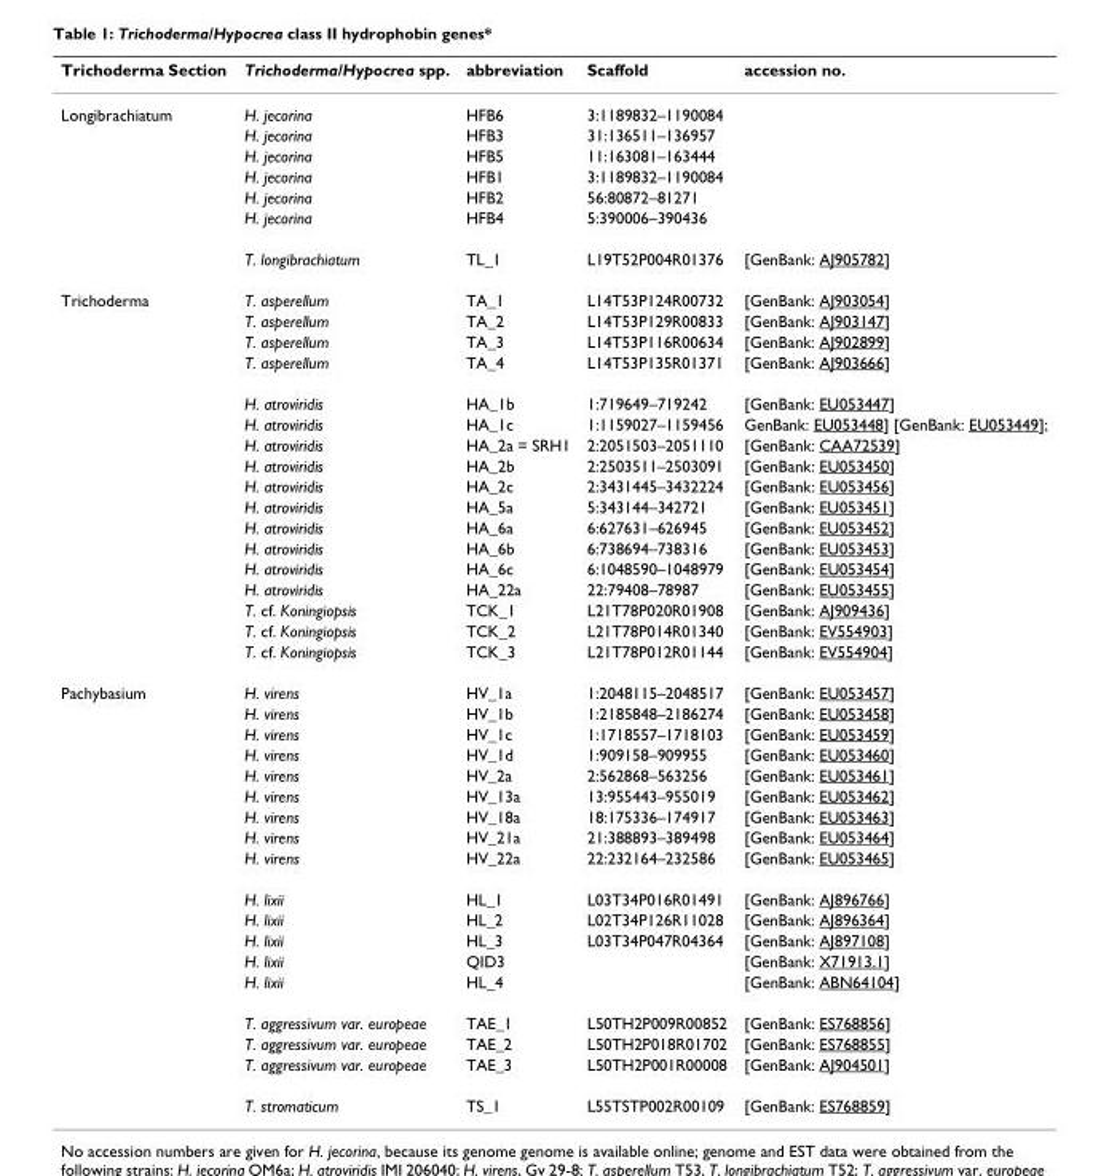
<table><thead><tr><td>Trichoderma Section</td><td>Trichoderma/Hypocrea spp.</td><td>abbreviation</td><td>Scaffold</td><td>accession no.</td></tr></thead><tbody><tr><td rowspan="7">Longibrachiatum</td><td>H. jecorina</td><td>HFB6</td><td>3:1189832–1190084</td><td></td></tr><tr><td>H. jecorina</td><td>HFB3</td><td>31:136511–136957</td><td></td></tr><tr><td>H. jecorina</td><td>HFB5</td><td>11:163081–163444</td><td></td></tr><tr><td>H. jecorina</td><td>HFB1</td><td>3:1189832–1190084</td><td></td></tr><tr><td>H. jecorina</td><td>HFB2</td><td>56:80872–81271</td><td></td></tr><tr><td>H. jecorina</td><td>HFB4</td><td>5:390006–390436</td><td></td></tr><tr><td>T. longibrachiatum</td><td>TL_1</td><td>L19T52P004R01376</td><td>[GenBank: AJ905782]</td></tr><tr><td rowspan="17">Trichoderma</td><td>T. asperellum</td><td>TA_1</td><td>L14T53P124R00732</td><td>[GenBank: AJ903054]</td></tr><tr><td>T. asperellum</td><td>TA_2</td><td>L14T53P129R00833</td><td>[GenBank: AJ903147]</td></tr><tr><td>T. asperellum</td><td>TA_3</td><td>L14T53P116R00634</td><td>[GenBank: AJ902899]</td></tr><tr><td>T. asperellum</td><td>TA_4</td><td>L14T53P135R01371</td><td>[GenBank: AJ903666]</td></tr><tr><td>H. atroviridis</td><td>HA_1b</td><td>1:719649–719242</td><td>[GenBank: EU053447]</td></tr><tr><td>H. atroviridis</td><td>HA_1c</td><td>1:1159027–1159456</td><td>GenBank: EU053448] [GenBank: EU053449];</td></tr><tr><td>H. atroviridis</td><td>HA_2a = SRH1</td><td>2:2051503–2051110</td><td>[GenBank: CAA72539]</td></tr><tr><td>H. atroviridis</td><td>HA_2b</td><td>2:2503511–2503091</td><td>[GenBank: EU053450]</td></tr><tr><td>H. atroviridis</td><td>HA_2c</td><td>2:3431445–3432224</td><td>[GenBank: EU053456]</td></tr><tr><td>H. atroviridis</td><td>HA_5a</td><td>5:343144–342721</td><td>[GenBank: EU053451]</td></tr><tr><td>H. atroviridis</td><td>HA_6a</td><td>6:627631–626945</td><td>[GenBank: EU053452]</td></tr><tr><td>H. atroviridis</td><td>HA_6b</td><td>6:738694–738316</td><td>[GenBank: EU053453]</td></tr><tr><td>H. atroviridis</td><td>HA_6c</td><td>6:1048590–1048979</td><td>[GenBank: EU053454]</td></tr><tr><td>H. atroviridis</td><td>HA_22a</td><td>22:79408–78987</td><td>[GenBank: EU053455]</td></tr><tr><td>T. cf. Koningiopsis</td><td>TCK_1</td><td>L21T78P020R01908</td><td>[GenBank: AJ909436]</td></tr><tr><td>T. cf. Koningiopsis</td><td>TCK_2</td><td>L21T78P014R01340</td><td>[GenBank: EV554903]</td></tr><tr><td>T. cf. Koningiopsis</td><td>TCK_3</td><td>L21T78P012R01144</td><td>[GenBank: EV554904]</td></tr><tr><td rowspan="18">Pachybasium</td><td>H. virens</td><td>HV_1a</td><td>1:2048115–2048517</td><td>[GenBank: EU053457]</td></tr><tr><td>H. virens</td><td>HV_1b</td><td>1:2185848–2186274</td><td>[GenBank: EU053458]</td></tr><tr><td>H. virens</td><td>HV_1c</td><td>1:1718557–1718103</td><td>[GenBank: EU053459]</td></tr><tr><td>H. virens</td><td>HV_1d</td><td>1:909158–909955</td><td>[GenBank: EU053460]</td></tr><tr><td>H. virens</td><td>HV_2a</td><td>2:562868–563256</td><td>[GenBank: EU053461]</td></tr><tr><td>H. virens</td><td>HV_13a</td><td>13:955443–955019</td><td>[GenBank: EU053462]</td></tr><tr><td>H. virens</td><td>HV_18a</td><td>18:175336–174917</td><td>[GenBank: EU053463]</td></tr><tr><td>H. virens</td><td>HV_21a</td><td>21:388893–389498</td><td>[GenBank: EU053464]</td></tr><tr><td>H. virens</td><td>HV_22a</td><td>22:232164–232586</td><td>[GenBank: EU053465]</td></tr><tr><td>H. lixii</td><td>HL_1</td><td>L03T34P016R01491</td><td>[GenBank: AJ896766]</td></tr><tr><td>H. lixii</td><td>HL_2</td><td>L02T34P126R11028</td><td>[GenBank: AJ896364]</td></tr><tr><td>H. lixii</td><td>HL_3</td><td>L03T34P047R04364</td><td>[GenBank: AJ897108]</td></tr><tr><td>H. lixii</td><td>QID3</td><td></td><td>[GenBank: X71913.1]</td></tr><tr><td>H. lixii</td><td>HL_4</td><td></td><td>[GenBank: ABN64104]</td></tr><tr><td>T. aggressivum var. europeae</td><td>TAE_1</td><td>L50TH2P009R00852</td><td>[GenBank: ES768856]</td></tr><tr><td>T. aggressivum var. europeae</td><td>TAE_2</td><td>L50TH2P018R01702</td><td>[GenBank: ES768855]</td></tr><tr><td>T. aggressivum var. europeae</td><td>TAE_3</td><td>L50TH2P001R00008</td><td>[GenBank: AJ904501]</td></tr><tr><td>T. stromaticum</td><td>TS_1</td><td>L55TSTP002R00109</td><td>[GenBank: ES768859]</td></tr></tbody></table>